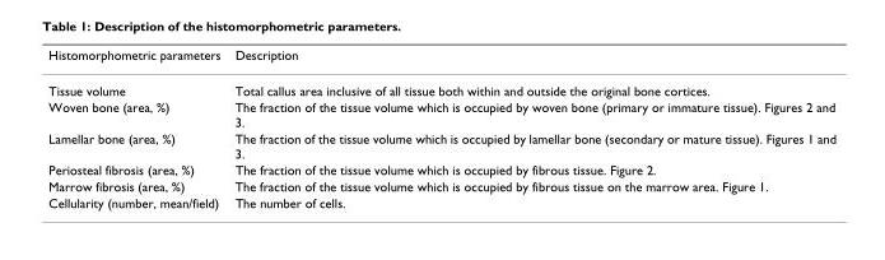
<table><thead><tr><td>Histomorphometric parameters</td><td>Description</td></tr></thead><tbody><tr><td>Tissue volume</td><td>Total callus area inclusive of all tissue both within and outside the original bone cortices.</td></tr><tr><td>Woven bone (area, %)</td><td>The fraction of the tissue volume which is occupied by woven bone (primary or immature tissue). Figures 2 and 3.</td></tr><tr><td>Lamellar bone (area, %)</td><td>The fraction of the tissue volume which is occupied by lamellar bone (secondary or mature tissue). Figures 1 and 3.</td></tr><tr><td>Periosteal fibrosis (area, %)</td><td>The fraction of the tissue volume which is occupied by fibrous tissue. Figure 2.</td></tr><tr><td>Marrow fibrosis (area, %)</td><td>The fraction of the tissue volume which is occupied by fibrous tissue on the marrow area. Figure 1.</td></tr><tr><td>Cellularity (number, mean/field)</td><td>The number of cells.</td></tr></tbody></table>